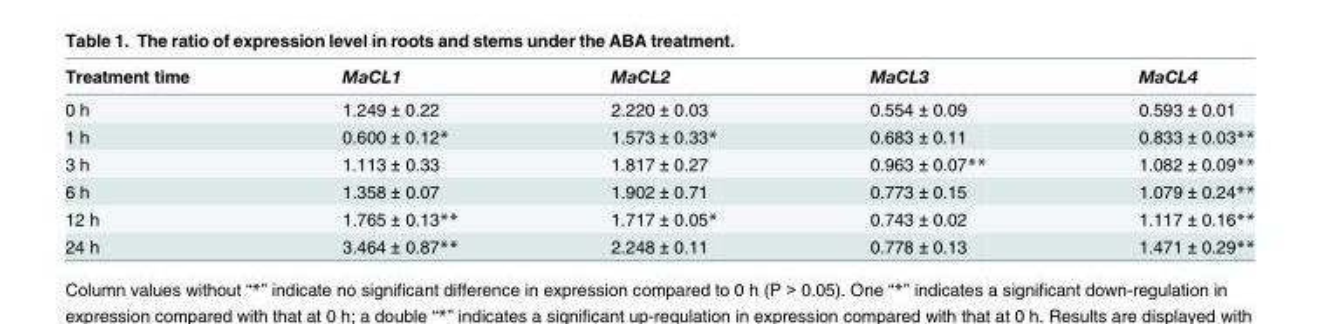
<table><thead><tr><td>Treatment time</td><td>MaCL1</td><td>MaCL2</td><td>MaCL3</td><td>MaCL4</td></tr></thead><tbody><tr><td>0 h</td><td>1.249 ± 0.22</td><td>2.220 ± 0.03</td><td>0.554 ± 0.09</td><td>0.593 ± 0.01</td></tr><tr><td>1 h</td><td>0.600 ± 0.12*</td><td>1.573 ± 0.33*</td><td>0.683 ± 0.11</td><td>0.833 ± 0.03**</td></tr><tr><td>3 h</td><td>1.113 ± 0.33</td><td>1.817 ± 0.27</td><td>0.963 ± 0.07**</td><td>1.082 ± 0.09**</td></tr><tr><td>6 h</td><td>1.358 ± 0.07</td><td>1.902 ± 0.71</td><td>0.773 ± 0.15</td><td>1.079 ± 0.24**</td></tr><tr><td>12 h</td><td>1.765 ± 0.13**</td><td>1.717 ± 0.05*</td><td>0.743 ± 0.02</td><td>1.117 ± 0.16**</td></tr><tr><td>24 h</td><td>3.464 ± 0.87**</td><td>2.248 ± 0.11</td><td>0.778 ± 0.13</td><td>1.471 ± 0.29**</td></tr></tbody></table>